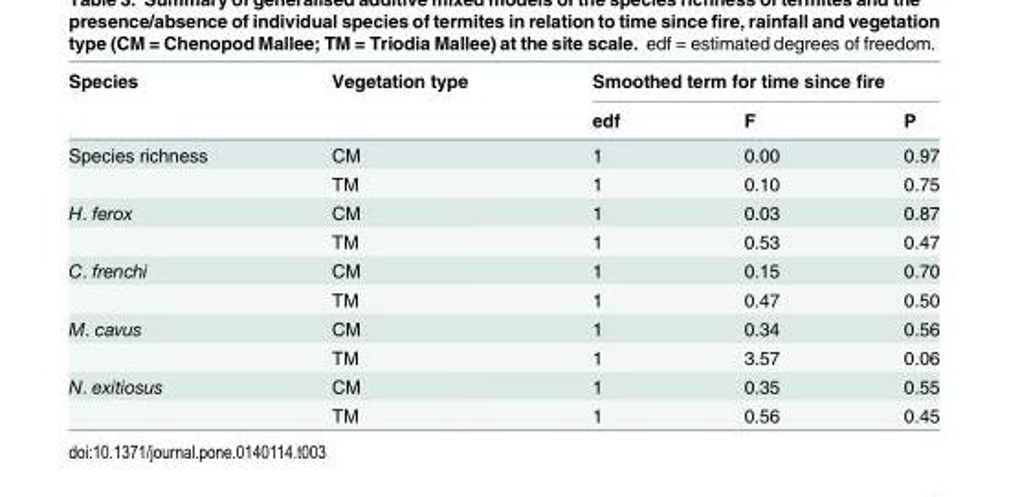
<table><thead><tr><td rowspan="2">Species</td><td rowspan="2">Vegetation type</td><td colspan="3">Smoothed term for time since fire</td></tr><tr><td>edf</td><td>F</td><td>P</td></tr></thead><tbody><tr><td rowspan="2">Species richness</td><td>CM</td><td>1</td><td>0.00</td><td>0.97</td></tr><tr><td>TM</td><td>1</td><td>0.10</td><td>0.75</td></tr><tr><td rowspan="2">H. ferox</td><td>CM</td><td>1</td><td>0.03</td><td>0.87</td></tr><tr><td>TM</td><td>1</td><td>0.53</td><td>0.47</td></tr><tr><td rowspan="2">C. frenchi</td><td>CM</td><td>1</td><td>0.15</td><td>0.70</td></tr><tr><td>TM</td><td>1</td><td>0.47</td><td>0.50</td></tr><tr><td rowspan="2">M. cavus</td><td>CM</td><td>1</td><td>0.34</td><td>0.56</td></tr><tr><td>TM</td><td>1</td><td>3.57</td><td>0.06</td></tr><tr><td rowspan="2">N. exitiosus</td><td>CM</td><td>1</td><td>0.35</td><td>0.55</td></tr><tr><td>TM</td><td>1</td><td>0.56</td><td>0.45</td></tr></tbody></table>